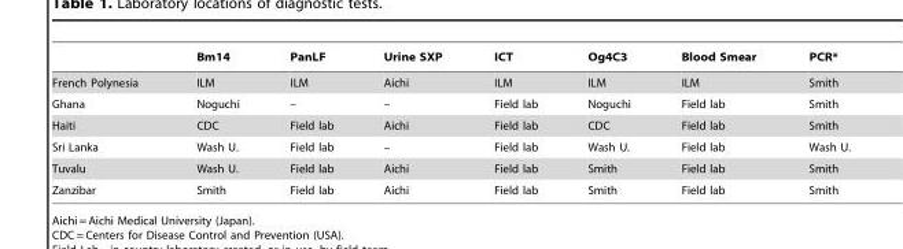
<table><thead><tr><td></td><td>Bm14</td><td>PanLF</td><td>Urine SXP</td><td>ICT</td><td>Og4C3</td><td>Blood Smear</td><td>PCR*</td></tr></thead><tbody><tr><td>French Polynesia</td><td>ILM</td><td>ILM</td><td>Aichi</td><td>ILM</td><td>ILM</td><td>ILM</td><td>Smith</td></tr><tr><td>Ghana</td><td>Noguchi</td><td>–</td><td>–</td><td>Field lab</td><td>Noguchi</td><td>Field lab</td><td>Smith</td></tr><tr><td>Haiti</td><td>CDC</td><td>Field lab</td><td>Aichi</td><td>Field lab</td><td>CDC</td><td>Field lab</td><td>Smith</td></tr><tr><td>Sri Lanka</td><td>Wash U.</td><td>Field lab</td><td>–</td><td>Field lab</td><td>Wash U.</td><td>Field lab</td><td>Wash U.</td></tr><tr><td>Tuvalu</td><td>Wash U.</td><td>Field lab</td><td>Aichi</td><td>Field lab</td><td>Smith</td><td>Field lab</td><td>Smith</td></tr><tr><td>Zanzibar</td><td>Smith</td><td>Field lab</td><td>Aichi</td><td>Field lab</td><td>Smith</td><td>Field lab</td><td>Smith</td></tr></tbody></table>